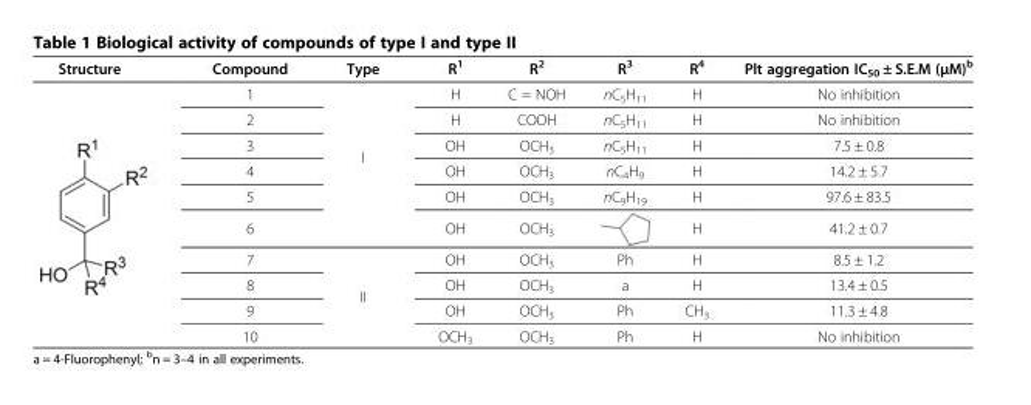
<table><thead><tr><td>Structure</td><td>Compound</td><td>Type</td><td>R<sup>1</sup></td><td>R<sup>2</sup></td><td>R<sup>3</sup></td><td>R<sup>4</sup></td><td>Plt aggregation IC<sub>50</sub> ± S.E.M (μM)<sup>b</sup></td></tr></thead><tbody><tr><td rowspan="10"></td><td>1</td><td rowspan="2"></td><td>H</td><td>C = NOH</td><td>nC<sub>5</sub>H<sub>11</sub></td><td>H</td><td>No inhibition</td></tr><tr><td>2</td><td>H</td><td>COOH</td><td>nC<sub>5</sub>H<sub>11</sub></td><td>H</td><td>No inhibition</td></tr><tr><td>3</td><td rowspan="4">I</td><td>OH</td><td>OCH<sub>3</sub></td><td>nC<sub>5</sub>H<sub>11</sub></td><td>H</td><td>7.5 ± 0.8</td></tr><tr><td>4</td><td>OH</td><td>OCH<sub>3</sub></td><td>nC<sub>4</sub>H<sub>9</sub></td><td>H</td><td>14.2 ± 5.7</td></tr><tr><td>5</td><td>OH</td><td>OCH<sub>3</sub></td><td>nC<sub>9</sub>H<sub>19</sub></td><td>H</td><td>97.6 ± 83.5</td></tr><tr><td>6</td><td>OH</td><td>OCH<sub>3</sub></td><td></td><td>H</td><td>41.2 ± 0.7</td></tr><tr><td>7</td><td></td><td>OH</td><td>OCH<sub>3</sub></td><td>Ph</td><td>H</td><td>8.5 ± 1.2</td></tr><tr><td>8</td><td rowspan="3">II</td><td>OH</td><td>OCH<sub>3</sub></td><td>a</td><td>H</td><td>13.4 ± 0.5</td></tr><tr><td>9</td><td>OH</td><td>OCH<sub>3</sub></td><td>Ph</td><td>CH<sub>3</sub></td><td>11.3 ± 4.8</td></tr><tr><td>10</td><td>OCH<sub>3</sub></td><td>OCH<sub>3</sub></td><td>Ph</td><td>H</td><td>No inhibition</td></tr></tbody></table>